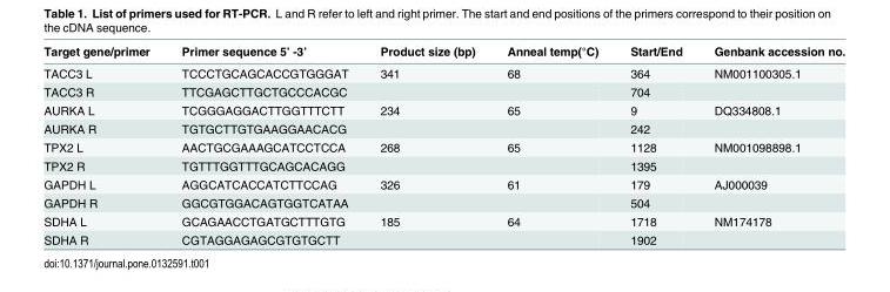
<table><thead><tr><td>Target gene/primer</td><td>Primer sequence 5’ -3’</td><td>Product size (bp)</td><td>Anneal temp(°C)</td><td>Start/End</td><td>Genbank accession no.</td></tr></thead><tbody><tr><td>TACC3 L</td><td>TCCCTGCAGCACCGTGGGAT</td><td>341</td><td>68</td><td>364</td><td>NM001100305.1</td></tr><tr><td>TACC3 R</td><td>TTCGAGCTTGCTGCCCACGC</td><td></td><td></td><td>704</td><td></td></tr><tr><td>AURKA L</td><td>TCGGGAGGACTTGGTTTCTT</td><td>234</td><td>65</td><td>9</td><td>DQ334808.1</td></tr><tr><td>AURKA R</td><td>TGTGCTTGTGAAGGAACACG</td><td></td><td></td><td>242</td><td></td></tr><tr><td>TPX2 L</td><td>AACTGCGAAAGCATCCTCCA</td><td>268</td><td>65</td><td>1128</td><td>NM001098898.1</td></tr><tr><td>TPX2 R</td><td>TGTTTGGTTTGCAGCACAGG</td><td></td><td></td><td>1395</td><td></td></tr><tr><td>GAPDH L</td><td>AGGCATCACCATCTTCCAG</td><td>326</td><td>61</td><td>179</td><td>AJ000039</td></tr><tr><td>GAPDH R</td><td>GGCGTGGACAGTGGTCATAA</td><td></td><td></td><td>504</td><td></td></tr><tr><td>SDHA L</td><td>GCAGAACCTGATGCTTTGTG</td><td>185</td><td>64</td><td>1718</td><td>NM174178</td></tr><tr><td>SDHA R</td><td>CGTAGGAGAGCGTGTGCTT</td><td></td><td></td><td>1902</td><td></td></tr></tbody></table>